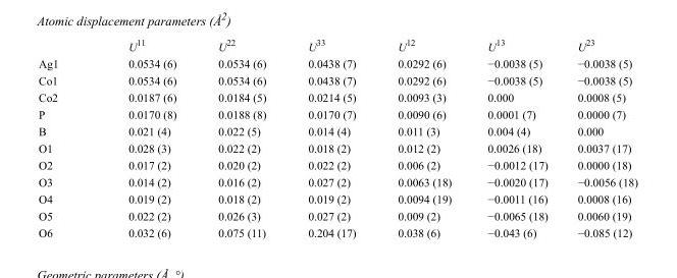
<table><thead><tr><td></td><td>U<sup>11</sup></td><td>U<sup>22</sup></td><td>U<sup>33</sup></td><td>U<sup>12</sup></td><td>U<sup>13</sup></td><td>U<sup>23</sup></td></tr></thead><tbody><tr><td>Ag1</td><td>0.0534 (6)</td><td>0.0534 (6)</td><td>0.0438 (7)</td><td>0.0292 (6)</td><td>−0.0038 (5)</td><td>−0.0038 (5)</td></tr><tr><td>Co1</td><td>0.0534 (6)</td><td>0.0534 (6)</td><td>0.0438 (7)</td><td>0.0292 (6)</td><td>−0.0038 (5)</td><td>−0.0038 (5)</td></tr><tr><td>Co2</td><td>0.0187 (6)</td><td>0.0184 (5)</td><td>0.0214 (5)</td><td>0.0093 (3)</td><td>0.000</td><td>0.0008 (5)</td></tr><tr><td>P</td><td>0.0170 (8)</td><td>0.0188 (8)</td><td>0.0170 (7)</td><td>0.0090 (6)</td><td>0.0001 (7)</td><td>0.0000 (7)</td></tr><tr><td>B</td><td>0.021 (4)</td><td>0.022 (5)</td><td>0.014 (4)</td><td>0.011 (3)</td><td>0.004 (4)</td><td>0.000</td></tr><tr><td>O1</td><td>0.028 (3)</td><td>0.022 (2)</td><td>0.018 (2)</td><td>0.012 (2)</td><td>0.0026 (18)</td><td>0.0037 (17)</td></tr><tr><td>O2</td><td>0.017 (2)</td><td>0.020 (2)</td><td>0.022 (2)</td><td>0.006 (2)</td><td>−0.0012 (17)</td><td>0.0000 (18)</td></tr><tr><td>O3</td><td>0.014 (2)</td><td>0.016 (2)</td><td>0.027 (2)</td><td>0.0063 (18)</td><td>−0.0020 (17)</td><td>−0.0056 (18)</td></tr><tr><td>O4</td><td>0.019 (2)</td><td>0.018 (2)</td><td>0.019 (2)</td><td>0.0094 (19)</td><td>−0.0011 (16)</td><td>0.0008 (16)</td></tr><tr><td>O5</td><td>0.022 (2)</td><td>0.026 (3)</td><td>0.027 (2)</td><td>0.009 (2)</td><td>−0.0065 (18)</td><td>0.0060 (19)</td></tr><tr><td>O6</td><td>0.032 (6)</td><td>0.075 (11)</td><td>0.204 (17)</td><td>0.038 (6)</td><td>−0.043 (6)</td><td>−0.085 (12)</td></tr></tbody></table>